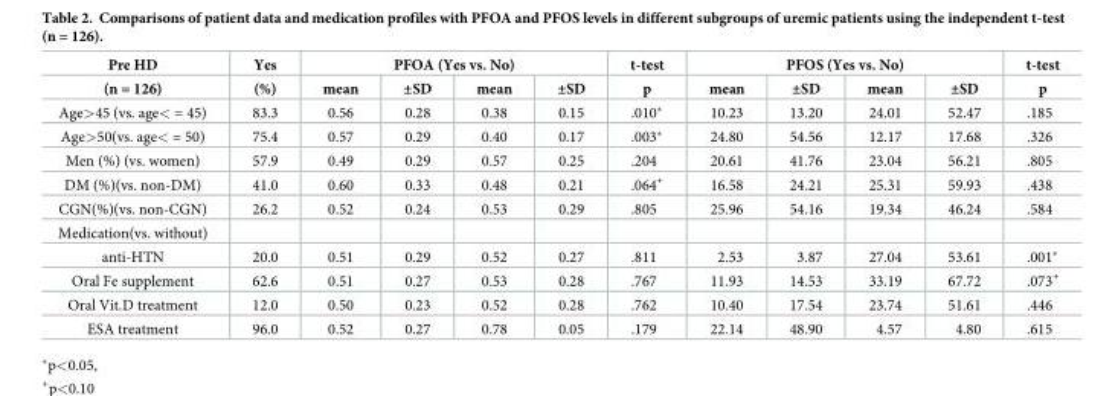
<table><thead><tr><td rowspan="2">Pre HD (n = 126)</td><td rowspan="2">Yes (%)</td><td colspan="4">PFOA (Yes vs. No)</td><td rowspan="2">t-test p</td><td colspan="4">PFOS (Yes vs. No)</td><td rowspan="2">t-test p</td></tr><tr><td>mean</td><td>±SD</td><td>mean</td><td>±SD</td><td>mean</td><td>±SD</td><td>mean</td><td>±SD</td></tr></thead><tbody><tr><td>Age&gt;45 (vs. age&lt; = 45)</td><td>83.3</td><td>0.56</td><td>0.28</td><td>0.38</td><td>0.15</td><td>.010*</td><td>10.23</td><td>13.20</td><td>24.01</td><td>52.47</td><td>.185</td></tr><tr><td>Age&gt;50(vs. age&lt; = 50)</td><td>75.4</td><td>0.57</td><td>0.29</td><td>0.40</td><td>0.17</td><td>.003*</td><td>24.80</td><td>54.56</td><td>12.17</td><td>17.68</td><td>.326</td></tr><tr><td>Men (%) (vs. women)</td><td>57.9</td><td>0.49</td><td>0.29</td><td>0.57</td><td>0.25</td><td>.204</td><td>20.61</td><td>41.76</td><td>23.04</td><td>56.21</td><td>.805</td></tr><tr><td>DM (%)(vs. non-DM)</td><td>41.0</td><td>0.60</td><td>0.33</td><td>0.48</td><td>0.21</td><td>.064<sup>+</sup></td><td>16.58</td><td>24.21</td><td>25.31</td><td>59.93</td><td>.438</td></tr><tr><td>CGN(%)(vs. non-CGN)</td><td>26.2</td><td>0.52</td><td>0.24</td><td>0.53</td><td>0.29</td><td>.805</td><td>25.96</td><td>54.16</td><td>19.34</td><td>46.24</td><td>.584</td></tr><tr><td colspan="12">Medication(vs. without)</td></tr><tr><td>anti-HTN</td><td>20.0</td><td>0.51</td><td>0.29</td><td>0.52</td><td>0.27</td><td>.811</td><td>2.53</td><td>3.87</td><td>27.04</td><td>53.61</td><td>.001*</td></tr><tr><td>Oral Fe supplement</td><td>62.6</td><td>0.51</td><td>0.27</td><td>0.53</td><td>0.28</td><td>.767</td><td>11.93</td><td>14.53</td><td>33.19</td><td>67.72</td><td>.073<sup>+</sup></td></tr><tr><td>Oral Vit.D treatment</td><td>12.0</td><td>0.50</td><td>0.23</td><td>0.52</td><td>0.28</td><td>.762</td><td>10.40</td><td>17.54</td><td>23.74</td><td>51.61</td><td>.446</td></tr><tr><td>ESA treatment</td><td>96.0</td><td>0.52</td><td>0.27</td><td>0.78</td><td>0.05</td><td>.179</td><td>22.14</td><td>48.90</td><td>4.57</td><td>4.80</td><td>.615</td></tr></tbody></table>